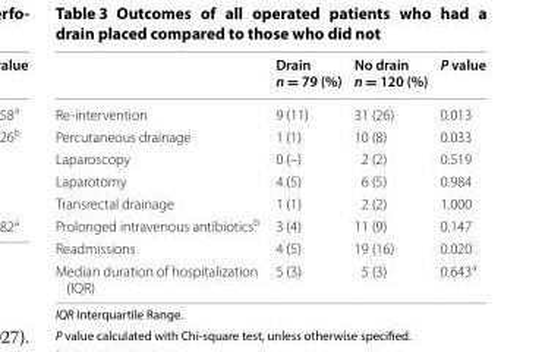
<table><thead><tr><td></td><td>Drain n = 79 (%)</td><td>No drain n = 120 (%)</td><td>P value</td></tr></thead><tbody><tr><td>Re-intervention</td><td>9 (11)</td><td>31 (26)</td><td>0.013</td></tr><tr><td>Percutaneous drainage</td><td>1 (1)</td><td>10 (8)</td><td>0.033</td></tr><tr><td>Laparoscopy</td><td>0 (–)</td><td>2 (2)</td><td>0.519</td></tr><tr><td>Laparotomy</td><td>4 (5)</td><td>6 (5)</td><td>0.984</td></tr><tr><td>Transrectal drainage</td><td>1 (1)</td><td>2 (2)</td><td>1.000</td></tr><tr><td>Prolonged intravenous antibiotics<sup>b</sup></td><td>3 (4)</td><td>11 (9)</td><td>0.147</td></tr><tr><td>Readmissions</td><td>4 (5)</td><td>19 (16)</td><td>0.020</td></tr><tr><td>Median duration of hospitalization (IQR)</td><td>5 (3)</td><td>5 (3)</td><td>0.643<sup>a</sup></td></tr></tbody></table>